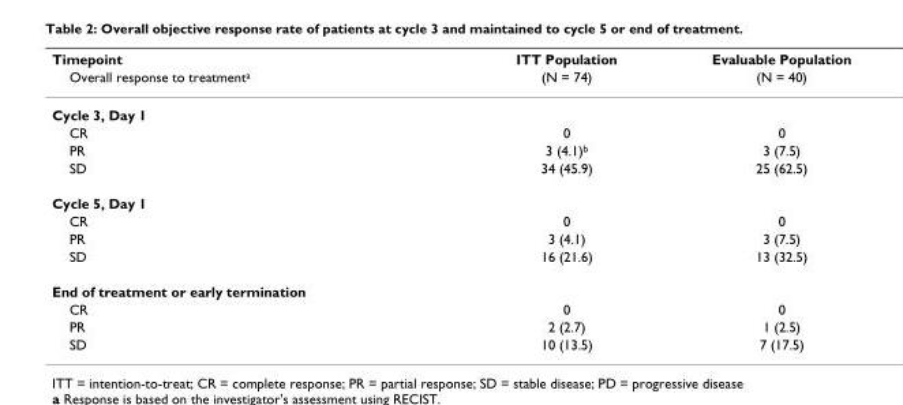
<table><thead><tr><td rowspan="2">Timepoint Overall response to treatment<sup>a</sup></td><td rowspan="2">ITT Population (N = 74)</td><td rowspan="2">Evaluable Population (N = 40)</td></tr><tr></tr></thead><tbody><tr><td colspan="3">Cycle 3, Day 1</td></tr><tr><td>CR</td><td>0</td><td>0</td></tr><tr><td>PR</td><td>3 (4.1)<sup>b</sup></td><td>3 (7.5)</td></tr><tr><td>SD</td><td>34 (45.9)</td><td>25 (62.5)</td></tr><tr><td colspan="3">Cycle 5, Day 1</td></tr><tr><td>CR</td><td>0</td><td>0</td></tr><tr><td>PR</td><td>3 (4.1)</td><td>3 (7.5)</td></tr><tr><td>SD</td><td>16 (21.6)</td><td>13 (32.5)</td></tr><tr><td colspan="3">End of treatment or early termination</td></tr><tr><td>CR</td><td>0</td><td>0</td></tr><tr><td>PR</td><td>2 (2.7)</td><td>1 (2.5)</td></tr><tr><td>SD</td><td>10 (13.5)</td><td>7 (17.5)</td></tr></tbody></table>